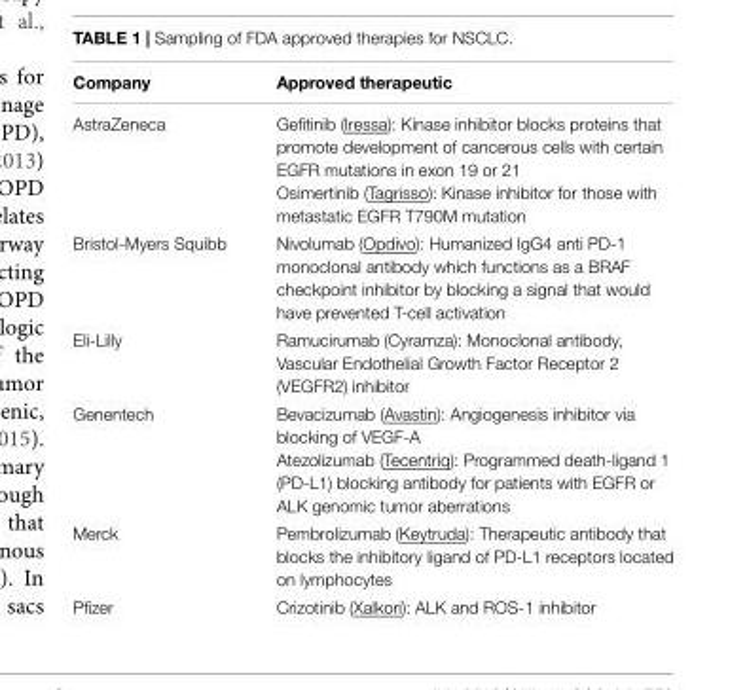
<table><thead><tr><td>Company</td><td>Approved therapeutic</td></tr></thead><tbody><tr><td>AstraZeneca</td><td>Gefitinib (Iressa): Kinase inhibitor blocks proteins that promote development of cancerous cells with certain EGFR mutations in exon 19 or 21 Osimertinib (Tagrisso): Kinase inhibitor for those with metastatic EGFR T790M mutation</td></tr><tr><td>Bristol-Myers Squibb</td><td>Nivolumab (Opdivo): Humanized IgG4 anti PD-1 monoclonal antibody which functions as a BRAF checkpoint inhibitor by blocking a signal that would have prevented T-cell activation</td></tr><tr><td>Eli-Lilly</td><td>Ramucirumab (Cyramza): Monoclonal antibody, Vascular Endothelial Growth Factor Receptor 2 (VEGFR2) inhibitor</td></tr><tr><td>Genentech</td><td>Bevacizumab (Avastin): Angiogenesis inhibitor via blocking of VEGF-A Atezolizumab (Tecentriq): Programmed death-ligand 1 (PD-L1) blocking antibody for patients with EGFR or ALK genomic tumor aberrations</td></tr><tr><td>Merck</td><td>Pembrolizumab (Keytruda): Therapeutic antibody that blocks the inhibitory ligand of PD-L1 receptors located on lymphocytes</td></tr><tr><td>Pfizer</td><td>Crizotinib (Xalkori): ALK and ROS-1 inhibitor</td></tr></tbody></table>